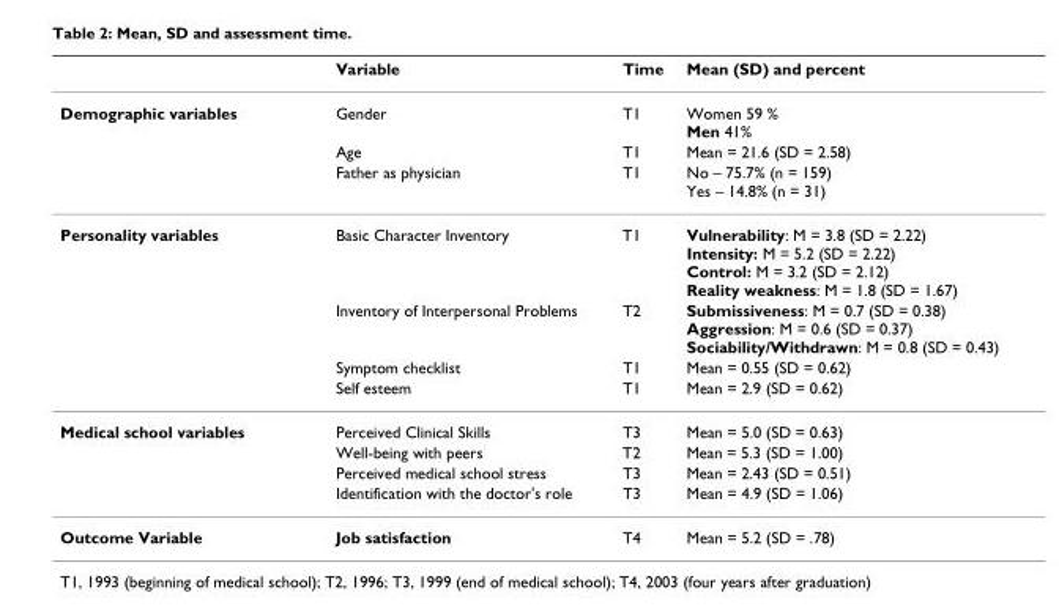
<table><thead><tr><td></td><td>Variable</td><td>Time</td><td>Mean (SD) and percent</td></tr></thead><tbody><tr><td rowspan="3">Demographic variables</td><td>Gender</td><td>T1</td><td>Women 59 % Men 41%</td></tr><tr><td>Age</td><td>T1</td><td>Mean = 21.6 (SD = 2.58)</td></tr><tr><td>Father as physician</td><td>T1</td><td>No – 75.7% (n = 159) Yes – 14.8% (n = 31)</td></tr><tr><td rowspan="4">Personality variables</td><td>Basic Character Inventory</td><td>T1</td><td>Vulnerability: M = 3.8 (SD = 2.22) Intensity: M = 5.2 (SD = 2.22) Control: M = 3.2 (SD = 2.12) Reality weakness: M = 1.8 (SD = 1.67)</td></tr><tr><td>Inventory of Interpersonal Problems</td><td>T2</td><td>Submissiveness: M = 0.7 (SD = 0.38) Aggression: M = 0.6 (SD = 0.37) Sociability/Withdrawn: M = 0.8 (SD = 0.43)</td></tr><tr><td>Symptom checklist</td><td>T1</td><td>Mean = 0.55 (SD = 0.62)</td></tr><tr><td>Self esteem</td><td>T1</td><td>Mean = 2.9 (SD = 0.62)</td></tr><tr><td rowspan="4">Medical school variables</td><td>Perceived Clinical Skills</td><td>T3</td><td>Mean = 5.0 (SD = 0.63)</td></tr><tr><td>Well-being with peers</td><td>T2</td><td>Mean = 5.3 (SD = 1.00)</td></tr><tr><td>Perceived medical school stress</td><td>T3</td><td>Mean = 2.43 (SD = 0.51)</td></tr><tr><td>Identification with the doctor&#x27;s role</td><td>T3</td><td>Mean = 4.9 (SD = 1.06)</td></tr><tr><td>Outcome Variable</td><td>Job satisfaction</td><td>T4</td><td>Mean = 5.2 (SD = .78)</td></tr></tbody></table>